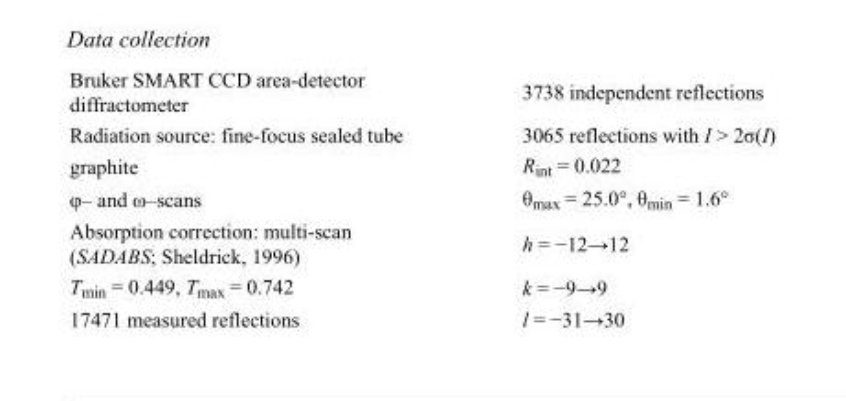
<table><tbody><tr><td>Bruker SMART CCD area-detector diffractometer</td><td>3738 independent reflections</td></tr><tr><td>Radiation source: fine-focus sealed tube</td><td>3065 reflections with I &gt; 2σ(I)</td></tr><tr><td>graphite</td><td>R<sub>int</sub> = 0.022</td></tr><tr><td>φ– and ω–scans</td><td>θ<sub>max</sub> = 25.0°, θ<sub>min</sub> = 1.6°</td></tr><tr><td>Absorption correction: multi-scan (SADABS; Sheldrick, 1996)</td><td>h = −12→12</td></tr><tr><td>T<sub>min</sub> = 0.449, T<sub>max</sub> = 0.742</td><td>k = −9→9</td></tr><tr><td>17471 measured reflections</td><td>l = −31→30</td></tr></tbody></table>